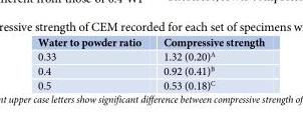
<table><thead><tr><td>Water to powder ratio</td><td>Compressive strength</td></tr></thead><tbody><tr><td>0.33</td><td>1.32 (0.20)<sup>A</sup></td></tr><tr><td>0.4</td><td>0.92 (0.41)<sup>B</sup></td></tr><tr><td>0.5</td><td>0.53 (0.18)<sup>C</sup></td></tr></tbody></table>